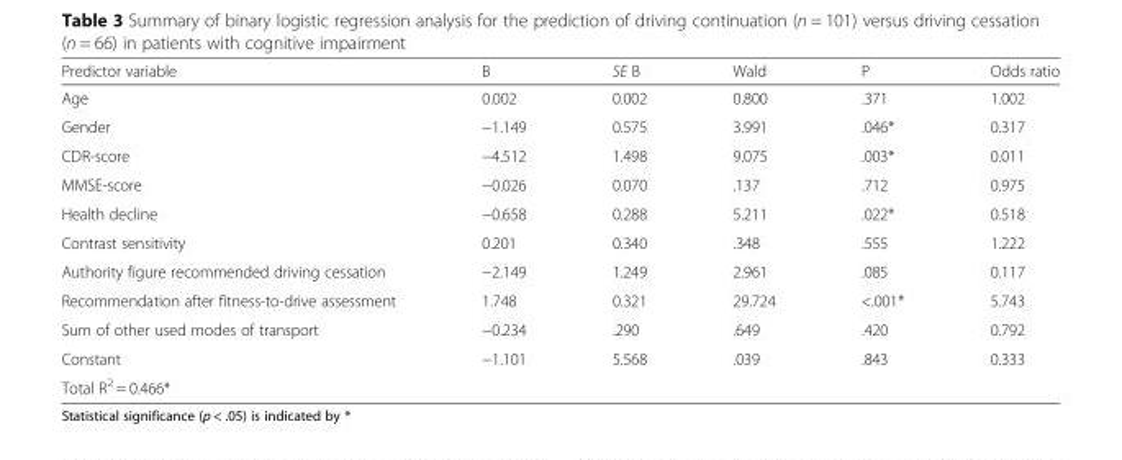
<table><thead><tr><td>Predictor variable</td><td>B</td><td>SE B</td><td>Wald</td><td>P</td><td>Odds ratio</td></tr></thead><tbody><tr><td>Age</td><td>0.002</td><td>0.002</td><td>0.800</td><td>.371</td><td>1.002</td></tr><tr><td>Gender</td><td>−1.149</td><td>0.575</td><td>3.991</td><td>.046*</td><td>0.317</td></tr><tr><td>CDR-score</td><td>−4.512</td><td>1.498</td><td>9.075</td><td>.003*</td><td>0.011</td></tr><tr><td>MMSE-score</td><td>−0.026</td><td>0.070</td><td>.137</td><td>.712</td><td>0.975</td></tr><tr><td>Health decline</td><td>−0.658</td><td>0.288</td><td>5.211</td><td>.022*</td><td>0.518</td></tr><tr><td>Contrast sensitivity</td><td>0.201</td><td>0.340</td><td>.348</td><td>.555</td><td>1.222</td></tr><tr><td>Authority figure recommended driving cessation</td><td>−2.149</td><td>1.249</td><td>2.961</td><td>.085</td><td>0.117</td></tr><tr><td>Recommendation after fitness-to-drive assessment</td><td>1.748</td><td>0.321</td><td>29.724</td><td>&lt;.001*</td><td>5.743</td></tr><tr><td>Sum of other used modes of transport</td><td>−0.234</td><td>.290</td><td>.649</td><td>.420</td><td>0.792</td></tr><tr><td>Constant</td><td>−1.101</td><td>5.568</td><td>.039</td><td>.843</td><td>0.333</td></tr><tr><td>Total R<sup>2</sup> = 0.466*</td><td></td><td></td><td></td><td></td><td></td></tr></tbody></table>